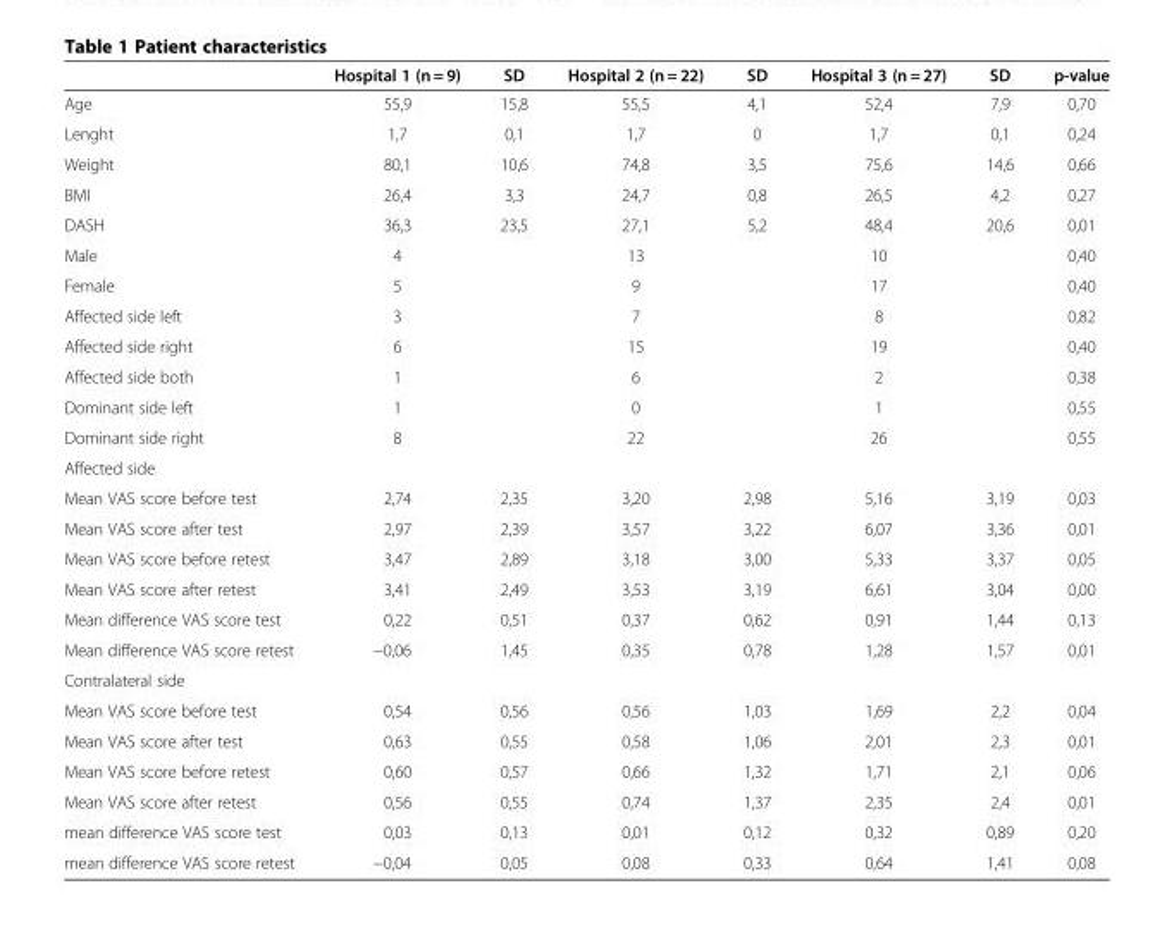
<table><thead><tr><td></td><td>Hospital 1 (n = 9)</td><td>SD</td><td>Hospital 2 (n = 22)</td><td>SD</td><td>Hospital 3 (n = 27)</td><td>SD</td><td>p-value</td></tr></thead><tbody><tr><td>Age</td><td>55,9</td><td>15,8</td><td>55,5</td><td>4,1</td><td>52,4</td><td>7,9</td><td>0,70</td></tr><tr><td>Lenght</td><td>1,7</td><td>0,1</td><td>1,7</td><td>0</td><td>1,7</td><td>0,1</td><td>0,24</td></tr><tr><td>Weight</td><td>80,1</td><td>10,6</td><td>74,8</td><td>3,5</td><td>75,6</td><td>14,6</td><td>0,66</td></tr><tr><td>BMI</td><td>26,4</td><td>3,3</td><td>24,7</td><td>0,8</td><td>26,5</td><td>4,2</td><td>0,27</td></tr><tr><td>DASH</td><td>36,3</td><td>23,5</td><td>27,1</td><td>5,2</td><td>48,4</td><td>20,6</td><td>0,01</td></tr><tr><td>Male</td><td>4</td><td></td><td>13</td><td></td><td>10</td><td></td><td>0,40</td></tr><tr><td>Female</td><td>5</td><td></td><td>9</td><td></td><td>17</td><td></td><td>0,40</td></tr><tr><td>Affected side left</td><td>3</td><td></td><td>7</td><td></td><td>8</td><td></td><td>0,82</td></tr><tr><td>Affected side right</td><td>6</td><td></td><td>15</td><td></td><td>19</td><td></td><td>0,40</td></tr><tr><td>Affected side both</td><td>1</td><td></td><td>6</td><td></td><td>2</td><td></td><td>0,38</td></tr><tr><td>Dominant side left</td><td>1</td><td></td><td>0</td><td></td><td>1</td><td></td><td>0,55</td></tr><tr><td>Dominant side right</td><td>8</td><td></td><td>22</td><td></td><td>26</td><td></td><td>0,55</td></tr><tr><td colspan="8">Affected side</td></tr><tr><td>Mean VAS score before test</td><td>2,74</td><td>2,35</td><td>3,20</td><td>2,98</td><td>5,16</td><td>3,19</td><td>0,03</td></tr><tr><td>Mean VAS score after test</td><td>2,97</td><td>2,39</td><td>3,57</td><td>3,22</td><td>6,07</td><td>3,36</td><td>0,01</td></tr><tr><td>Mean VAS score before retest</td><td>3,47</td><td>2,89</td><td>3,18</td><td>3,00</td><td>5,33</td><td>3,37</td><td>0,05</td></tr><tr><td>Mean VAS score after retest</td><td>3,41</td><td>2,49</td><td>3,53</td><td>3,19</td><td>6,61</td><td>3,04</td><td>0,00</td></tr><tr><td>Mean difference VAS score test</td><td>0,22</td><td>0,51</td><td>0,37</td><td>0,62</td><td>0,91</td><td>1,44</td><td>0,13</td></tr><tr><td>Mean difference VAS score retest</td><td>−0,06</td><td>1,45</td><td>0,35</td><td>0,78</td><td>1,28</td><td>1,57</td><td>0,01</td></tr><tr><td colspan="8">Contralateral side</td></tr><tr><td>Mean VAS score before test</td><td>0,54</td><td>0,56</td><td>0,56</td><td>1,03</td><td>1,69</td><td>2,2</td><td>0,04</td></tr><tr><td>Mean VAS score after test</td><td>0,63</td><td>0,55</td><td>0,58</td><td>1,06</td><td>2,01</td><td>2,3</td><td>0,01</td></tr><tr><td>Mean VAS score before retest</td><td>0,60</td><td>0,57</td><td>0,66</td><td>1,32</td><td>1,71</td><td>2,1</td><td>0,06</td></tr><tr><td>Mean VAS score after retest</td><td>0,56</td><td>0,55</td><td>0,74</td><td>1,37</td><td>2,35</td><td>2,4</td><td>0,01</td></tr><tr><td>mean difference VAS score test</td><td>0,03</td><td>0,13</td><td>0,01</td><td>0,12</td><td>0,32</td><td>0,89</td><td>0,20</td></tr><tr><td>mean difference VAS score retest</td><td>−0,04</td><td>0,05</td><td>0,08</td><td>0,33</td><td>0,64</td><td>1,41</td><td>0,08</td></tr></tbody></table>